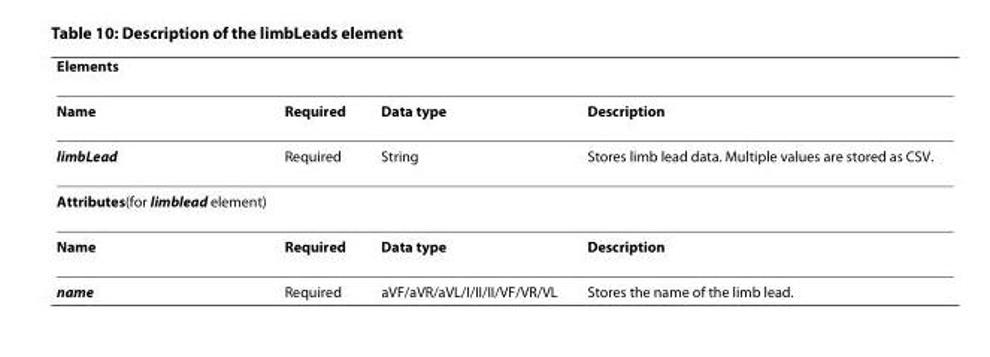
<table><thead><tr><td>Elements</td><td></td><td></td><td></td></tr></thead><tbody><tr><td>Name</td><td>Required</td><td>Data type</td><td>Description</td></tr><tr><td>limbLead</td><td>Required</td><td>String</td><td>Stores limb lead data. Multiple values are stored as CSV.</td></tr><tr><td colspan="4">Attributes(for limblead element)</td></tr><tr><td>Name</td><td>Required</td><td>Data type</td><td>Description</td></tr><tr><td>name</td><td>Required</td><td>aVF/aVR/aVL/I/II/II/VF/VR/VL</td><td>Stores the name of the limb lead.</td></tr></tbody></table>